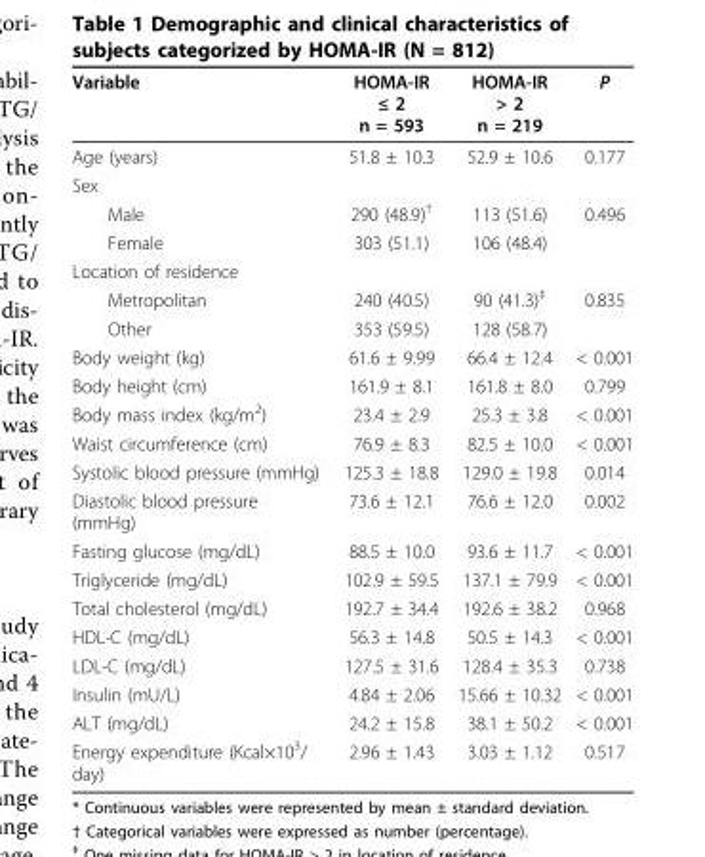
<table><thead><tr><td>Variable</td><td>HOMA-IR ≤ 2 n = 593</td><td>HOMA-IR &gt; 2 n = 219</td><td>P</td></tr></thead><tbody><tr><td>Age (years)</td><td>51.8 ± 10.3</td><td>52.9 ± 10.6</td><td>0.177</td></tr><tr><td colspan="4">Sex</td></tr><tr><td>Male</td><td>290 (48.9)<sup>†</sup></td><td>113 (51.6)</td><td>0.496</td></tr><tr><td>Female</td><td>303 (51.1)</td><td>106 (48.4)</td><td></td></tr><tr><td colspan="4">Location of residence</td></tr><tr><td>Metropolitan</td><td>240 (40.5)</td><td>90 (41.3)<sup>‡</sup></td><td>0.835</td></tr><tr><td>Other</td><td>353 (59.5)</td><td>128 (58.7)</td><td></td></tr><tr><td>Body weight (kg)</td><td>61.6 ± 9.99</td><td>66.4 ± 12.4</td><td>&lt; 0.001</td></tr><tr><td>Body height (cm)</td><td>161.9 ± 8.1</td><td>161.8 ± 8.0</td><td>0.799</td></tr><tr><td>Body mass index (kg/m<sup>2</sup>)</td><td>23.4 ± 2.9</td><td>25.3 ± 3.8</td><td>&lt; 0.001</td></tr><tr><td>Waist circumference (cm)</td><td>76.9 ± 8.3</td><td>82.5 ± 10.0</td><td>&lt; 0.001</td></tr><tr><td>Systolic blood pressure (mmHg)</td><td>125.3 ± 18.8</td><td>129.0 ± 19.8</td><td>0.014</td></tr><tr><td>Diastolic blood pressure (mmHg)</td><td>73.6 ± 12.1</td><td>76.6 ± 12.0</td><td>0.002</td></tr><tr><td>Fasting glucose (mg/dL)</td><td>88.5 ± 10.0</td><td>93.6 ± 11.7</td><td>&lt; 0.001</td></tr><tr><td>Triglyceride (mg/dL)</td><td>102.9 ± 59.5</td><td>137.1 ± 79.9</td><td>&lt; 0.001</td></tr><tr><td>Total cholesterol (mg/dL)</td><td>192.7 ± 34.4</td><td>192.6 ± 38.2</td><td>0.968</td></tr><tr><td>HDL-C (mg/dL)</td><td>56.3 ± 14.8</td><td>50.5 ± 14.3</td><td>&lt; 0.001</td></tr><tr><td>LDL-C (mg/dL)</td><td>127.5 ± 31.6</td><td>128.4 ± 35.3</td><td>0.738</td></tr><tr><td>Insulin (mU/L)</td><td>4.84 ± 2.06</td><td>15.66 ± 10.32</td><td>&lt; 0.001</td></tr><tr><td>ALT (mg/dL)</td><td>24.2 ± 15.8</td><td>38.1 ± 50.2</td><td>&lt; 0.001</td></tr><tr><td>Energy expenditure (Kcal×10<sup>3</sup>/ day)</td><td>2.96 ± 1.43</td><td>3.03 ± 1.12</td><td>0.517</td></tr></tbody></table>